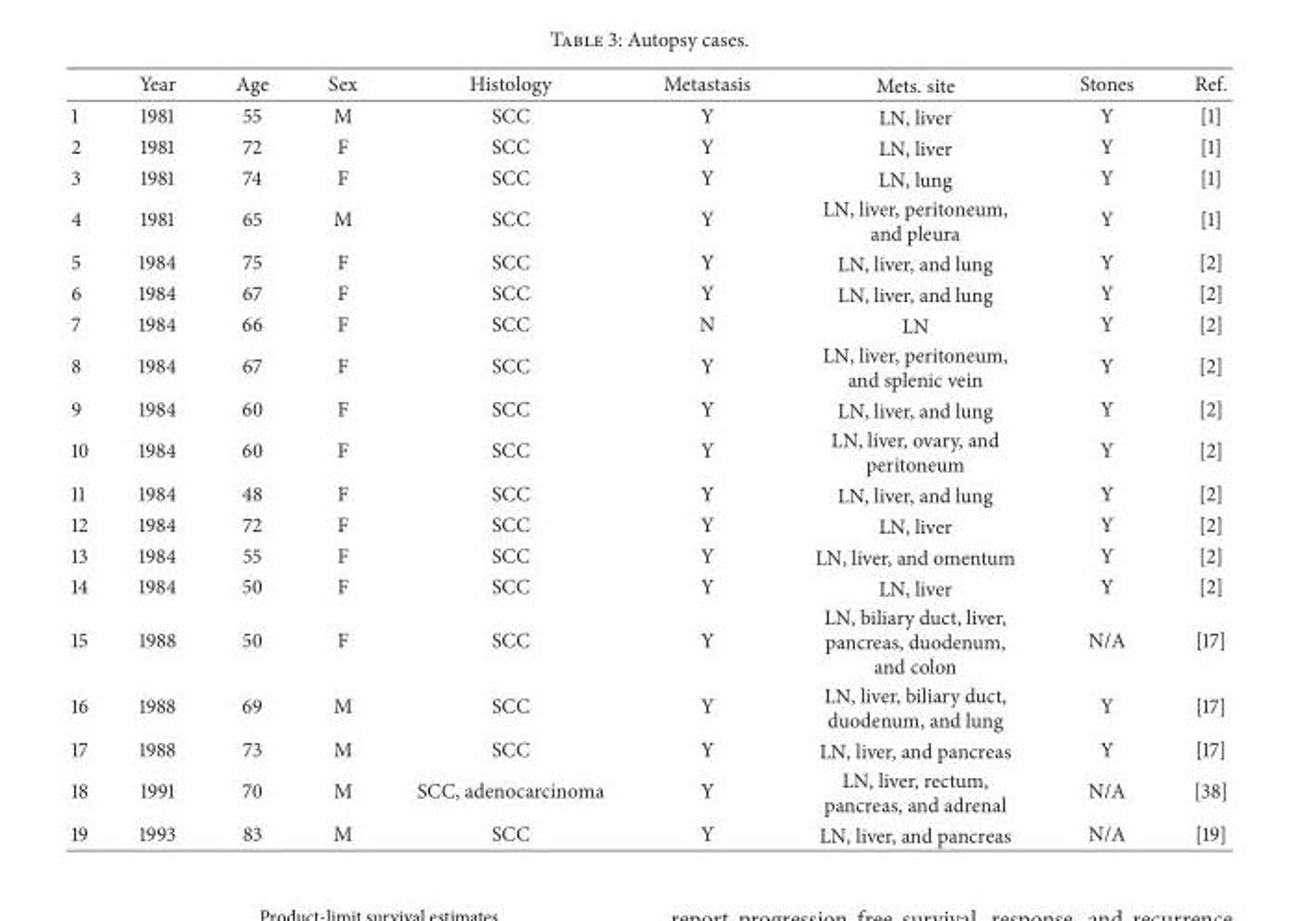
<table><thead><tr><td></td><td>Year</td><td>Age</td><td>Sex</td><td>Histology</td><td>Metastasis</td><td>Mets. site</td><td>Stones</td><td>Ref.</td></tr></thead><tbody><tr><td>1</td><td>1981</td><td>55</td><td>M</td><td>SCC</td><td>Y</td><td>LN, liver</td><td>Y</td><td>[1]</td></tr><tr><td>2</td><td>1981</td><td>72</td><td>F</td><td>SCC</td><td>Y</td><td>LN, liver</td><td>Y</td><td>[1]</td></tr><tr><td>3</td><td>1981</td><td>74</td><td>F</td><td>SCC</td><td>Y</td><td>LN, lung</td><td>Y</td><td>[1]</td></tr><tr><td>4</td><td>1981</td><td>65</td><td>M</td><td>SCC</td><td>Y</td><td>LN, liver, peritoneum, and pleura</td><td>Y</td><td>[1]</td></tr><tr><td>5</td><td>1984</td><td>75</td><td>F</td><td>SCC</td><td>Y</td><td>LN, liver, and lung</td><td>Y</td><td>[2]</td></tr><tr><td>6</td><td>1984</td><td>67</td><td>F</td><td>SCC</td><td>Y</td><td>LN, liver, and lung</td><td>Y</td><td>[2]</td></tr><tr><td>7</td><td>1984</td><td>66</td><td>F</td><td>SCC</td><td>N</td><td>LN</td><td>Y</td><td>[2]</td></tr><tr><td>8</td><td>1984</td><td>67</td><td>F</td><td>SCC</td><td>Y</td><td>LN, liver, peritoneum, and splenic vein</td><td>Y</td><td>[2]</td></tr><tr><td>9</td><td>1984</td><td>60</td><td>F</td><td>SCC</td><td>Y</td><td>LN, liver, and lung</td><td>Y</td><td>[2]</td></tr><tr><td>10</td><td>1984</td><td>60</td><td>F</td><td>SCC</td><td>Y</td><td>LN, liver, ovary, and peritoneum</td><td>Y</td><td>[2]</td></tr><tr><td>11</td><td>1984</td><td>48</td><td>F</td><td>SCC</td><td>Y</td><td>LN, liver, and lung</td><td>Y</td><td>[2]</td></tr><tr><td>12</td><td>1984</td><td>72</td><td>F</td><td>SCC</td><td>Y</td><td>LN, liver</td><td>Y</td><td>[2]</td></tr><tr><td>13</td><td>1984</td><td>55</td><td>F</td><td>SCC</td><td>Y</td><td>LN, liver, and omentum</td><td>Y</td><td>[2]</td></tr><tr><td>14</td><td>1984</td><td>50</td><td>F</td><td>SCC</td><td>Y</td><td>LN, liver</td><td>Y</td><td>[2]</td></tr><tr><td>15</td><td>1988</td><td>50</td><td>F</td><td>SCC</td><td>Y</td><td>LN, biliary duct, liver, pancreas, duodenum, and colon</td><td>N/A</td><td>[17]</td></tr><tr><td>16</td><td>1988</td><td>69</td><td>M</td><td>SCC</td><td>Y</td><td>LN, liver, biliary duct, duodenum, and lung</td><td>Y</td><td>[17]</td></tr><tr><td>17</td><td>1988</td><td>73</td><td>M</td><td>SCC</td><td>Y</td><td>LN, liver, and pancreas</td><td>Y</td><td>[17]</td></tr><tr><td>18</td><td>1991</td><td>70</td><td>M</td><td>SCC, adenocarcinoma</td><td>Y</td><td>LN, liver, rectum, pancreas, and adrenal</td><td>N/A</td><td>[38]</td></tr><tr><td>19</td><td>1993</td><td>83</td><td>M</td><td>SCC</td><td>Y</td><td>LN, liver, and pancreas</td><td>N/A</td><td>[19]</td></tr></tbody></table>